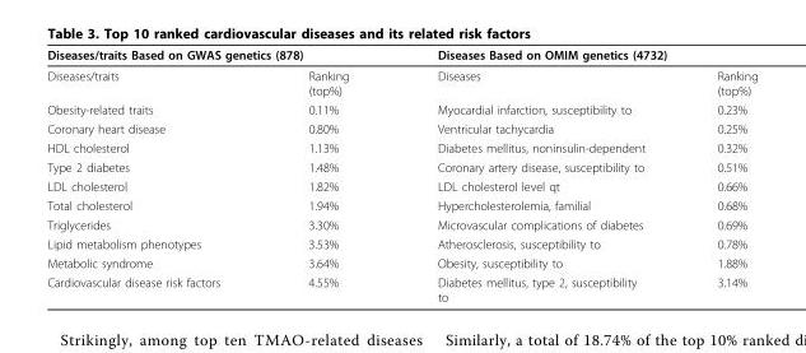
<table><thead><tr><td colspan="2">Diseases/traits Based on GWAS genetics (878)</td><td colspan="2">Diseases Based on OMIM genetics (4732)</td></tr><tr><td>Diseases/traits</td><td>Ranking (top%)</td><td>Diseases</td><td>Ranking (top%)</td></tr></thead><tbody><tr><td>Obesity-related traits</td><td>0.11%</td><td>Myocardial infarction, susceptibility to</td><td>0.23%</td></tr><tr><td>Coronary heart disease</td><td>0.80%</td><td>Ventricular tachycardia</td><td>0.25%</td></tr><tr><td>HDL cholesterol</td><td>1.13%</td><td>Diabetes mellitus, noninsulin-dependent</td><td>0.32%</td></tr><tr><td>Type 2 diabetes</td><td>1.48%</td><td>Coronary artery disease, susceptibility to</td><td>0.51%</td></tr><tr><td>LDL cholesterol</td><td>1.82%</td><td>LDL cholesterol level qt</td><td>0.66%</td></tr><tr><td>Total cholesterol</td><td>1.94%</td><td>Hypercholesterolemia, familial</td><td>0.68%</td></tr><tr><td>Triglycerides</td><td>3.30%</td><td>Microvascular complications of diabetes</td><td>0.69%</td></tr><tr><td>Lipid metabolism phenotypes</td><td>3.53%</td><td>Atherosclerosis, susceptibility to</td><td>0.78%</td></tr><tr><td>Metabolic syndrome</td><td>3.64%</td><td>Obesity, susceptibility to</td><td>1.88%</td></tr><tr><td>Cardiovascular disease risk factors</td><td>4.55%</td><td>Diabetes mellitus, type 2, susceptibility to</td><td>3.14%</td></tr></tbody></table>